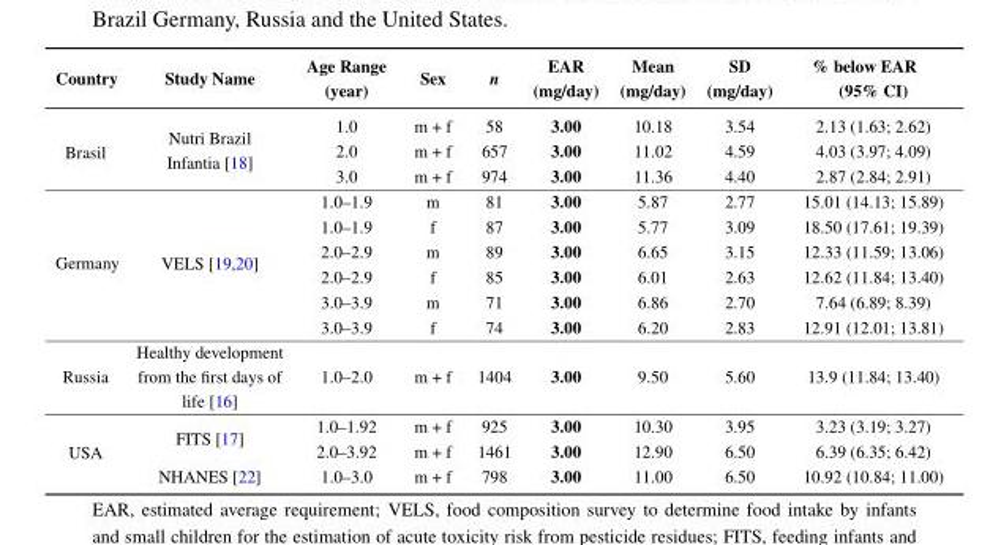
<table><thead><tr><td>Country</td><td>Study Name</td><td>Age Range (year)</td><td>Sex</td><td>n</td><td>EAR (mg/day)</td><td>Mean (mg/day)</td><td>SD (mg/day)</td><td>% below EAR (95% CI)</td></tr></thead><tbody><tr><td rowspan="3">Brasil</td><td rowspan="3">Nutri Brazil Infantia [18]</td><td>1.0</td><td>m + f</td><td>58</td><td>3.00</td><td>10.18</td><td>3.54</td><td>2.13 (1.63; 2.62)</td></tr><tr><td>2.0</td><td>m + f</td><td>657</td><td>3.00</td><td>11.02</td><td>4.59</td><td>4.03 (3.97; 4.09)</td></tr><tr><td>3.0</td><td>m + f</td><td>974</td><td>3.00</td><td>11.36</td><td>4.40</td><td>2.87 (2.84; 2.91)</td></tr><tr><td rowspan="6">Germany</td><td rowspan="6">VELS [19,20]</td><td>1.0–1.9</td><td>m</td><td>81</td><td>3.00</td><td>5.87</td><td>2.77</td><td>15.01 (14.13; 15.89)</td></tr><tr><td>1.0–1.9</td><td>f</td><td>87</td><td>3.00</td><td>5.77</td><td>3.09</td><td>18.50 (17.61; 19.39)</td></tr><tr><td>2.0–2.9</td><td>m</td><td>89</td><td>3.00</td><td>6.65</td><td>3.15</td><td>12.33 (11.59; 13.06)</td></tr><tr><td>2.0–2.9</td><td>f</td><td>85</td><td>3.00</td><td>6.01</td><td>2.63</td><td>12.62 (11.84; 13.40)</td></tr><tr><td>3.0–3.9</td><td>m</td><td>71</td><td>3.00</td><td>6.86</td><td>2.70</td><td>7.64 (6.89; 8.39)</td></tr><tr><td>3.0–3.9</td><td>f</td><td>74</td><td>3.00</td><td>6.20</td><td>2.83</td><td>12.91 (12.01; 13.81)</td></tr><tr><td>Russia</td><td>Healthy development from the first days of life [16]</td><td>1.0–2.0</td><td>m + f</td><td>1404</td><td>3.00</td><td>9.50</td><td>5.60</td><td>13.9 (11.84; 13.40)</td></tr><tr><td rowspan="3">USA</td><td rowspan="2">FITS [17]</td><td>1.0–1.92</td><td>m + f</td><td>925</td><td>3.00</td><td>10.30</td><td>3.95</td><td>3.23 (3.19; 3.27)</td></tr><tr><td>2.0–3.92</td><td>m + f</td><td>1461</td><td>3.00</td><td>12.90</td><td>6.50</td><td>6.39 (6.35; 6.42)</td></tr><tr><td>NHANES [22]</td><td>1.0–3.0</td><td>m + f</td><td>798</td><td>3.00</td><td>11.00</td><td>6.50</td><td>10.92 (10.84; 11.00)</td></tr></tbody></table>